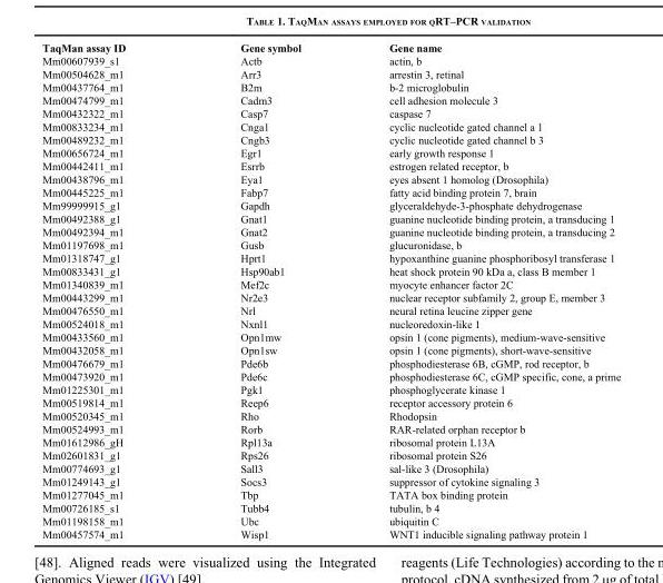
<table><thead><tr><td>TaqMan assay ID</td><td>Gene symbol</td><td>Gene name</td></tr></thead><tbody><tr><td>Mm00607939_s1</td><td>Actb</td><td>actin, b</td></tr><tr><td>Mm00504628_m1</td><td>Arr3</td><td>arrestin 3, retinal</td></tr><tr><td>Mm00437764_m1</td><td>B2m</td><td>b-2 microglobulin</td></tr><tr><td>Mm00474799_m1</td><td>Cadm3</td><td>cell adhesion molecule 3</td></tr><tr><td>Mm00432322_m1</td><td>Casp7</td><td>caspase 7</td></tr><tr><td>Mm00833234_m1</td><td>Cnga1</td><td>cyclic nucleotide gated channel a 1</td></tr><tr><td>Mm00489232_m1</td><td>Cngb3</td><td>cyclic nucleotide gated channel b 3</td></tr><tr><td>Mm00656724_m1</td><td>Egr1</td><td>early growth response 1</td></tr><tr><td>Mm00442411_m1</td><td>Esrrb</td><td>estrogen related receptor, b</td></tr><tr><td>Mm00438796_m1</td><td>Eya1</td><td>eyes absent 1 homolog (Drosophila)</td></tr><tr><td>Mm00445225_m1</td><td>Fabp7</td><td>fatty acid binding protein 7, brain</td></tr><tr><td>Mm99999915_g1</td><td>Gapdh</td><td>glyceraldehyde-3-phosphate dehydrogenase</td></tr><tr><td>Mm00492388_g1</td><td>Gnat1</td><td>guanine nucleotide binding protein, a transducing 1</td></tr><tr><td>Mm00492394_m1</td><td>Gnat2</td><td>guanine nucleotide binding protein, a transducing 2</td></tr><tr><td>Mm01197698_m1</td><td>Gusb</td><td>glucuronidase, b</td></tr><tr><td>Mm01318747_g1</td><td>Hprt1</td><td>hypoxanthine guanine phosphoribosyl transferase 1</td></tr><tr><td>Mm00833431_g1</td><td>Hsp90ab1</td><td>heat shock protein 90 kDa a, class B member 1</td></tr><tr><td>Mm01340839_m1</td><td>Mef2c</td><td>myocyte enhancer factor 2C</td></tr><tr><td>Mm00443299_m1</td><td>Nr2e3</td><td>nuclear receptor subfamily 2, group E, member 3</td></tr><tr><td>Mm00476550_m1</td><td>Nrl</td><td>neural retina leucine zipper gene</td></tr><tr><td>Mm00524018_m1</td><td>Nxnl1</td><td>nucleoredoxin-like 1</td></tr><tr><td>Mm00433560_m1</td><td>Opn1mw</td><td>opsin 1 (cone pigments), medium-wave-sensitive</td></tr><tr><td>Mm00432058_m1</td><td>Opn1sw</td><td>opsin 1 (cone pigments), short-wave-sensitive</td></tr><tr><td>Mm00476679_m1</td><td>Pde6b</td><td>phosphodiesterase 6B, cGMP, rod receptor, b</td></tr><tr><td>Mm00473920_m1</td><td>Pde6c</td><td>phosphodiesterase 6C, cGMP specific, cone, a prime</td></tr><tr><td>Mm01225301_m1</td><td>Pgk1</td><td>phosphoglycerate kinase 1</td></tr><tr><td>Mm00519814_m1</td><td>Reep6</td><td>receptor accessory protein 6</td></tr><tr><td>Mm00520345_m1</td><td>Rho</td><td>Rhodopsin</td></tr><tr><td>Mm00524993_m1</td><td>Rorb</td><td>RAR-related orphan receptor b</td></tr><tr><td>Mm01612986_gH</td><td>Rpl13a</td><td>ribosomal protein L13A</td></tr><tr><td>Mm02601831_g1</td><td>Rps26</td><td>ribosomal protein S26</td></tr><tr><td>Mm00774693_g1</td><td>Sall3</td><td>sal-like 3 (Drosophila)</td></tr><tr><td>Mm01249143_g1</td><td>Socs3</td><td>suppressor of cytokine signaling 3</td></tr><tr><td>Mm01277045_m1</td><td>Tbp</td><td>TATA box binding protein</td></tr><tr><td>Mm00726185_s1</td><td>Tubb4</td><td>tubulin, b 4</td></tr><tr><td>Mm01198158_m1</td><td>Ubc</td><td>ubiquitin C</td></tr><tr><td>Mm00457574_m1</td><td>Wisp1</td><td>WNT1 inducible signaling pathway protein 1</td></tr></tbody></table>